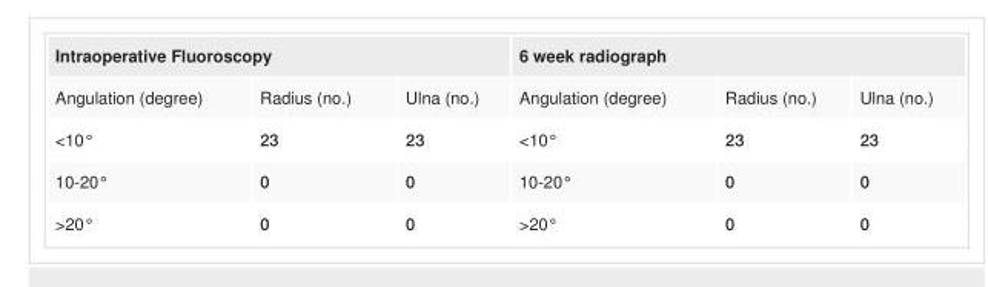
<table><tbody><tr><td colspan="3">Intraoperative Fluoroscopy</td><td colspan="3">6 week radiograph</td></tr><tr><td>Angulation (degree)</td><td>Radius (no.)</td><td>Ulna (no.)</td><td>Angulation (degree)</td><td>Radius (no.)</td><td>Ulna (no.)</td></tr><tr><td>&lt;10°</td><td>23</td><td>23</td><td>&lt;10°</td><td>23</td><td>23</td></tr><tr><td>10-20°</td><td>0</td><td>0</td><td>10-20°</td><td>0</td><td>0</td></tr><tr><td>&gt;20°</td><td>0</td><td>0</td><td>&gt;20°</td><td>0</td><td>0</td></tr></tbody></table>